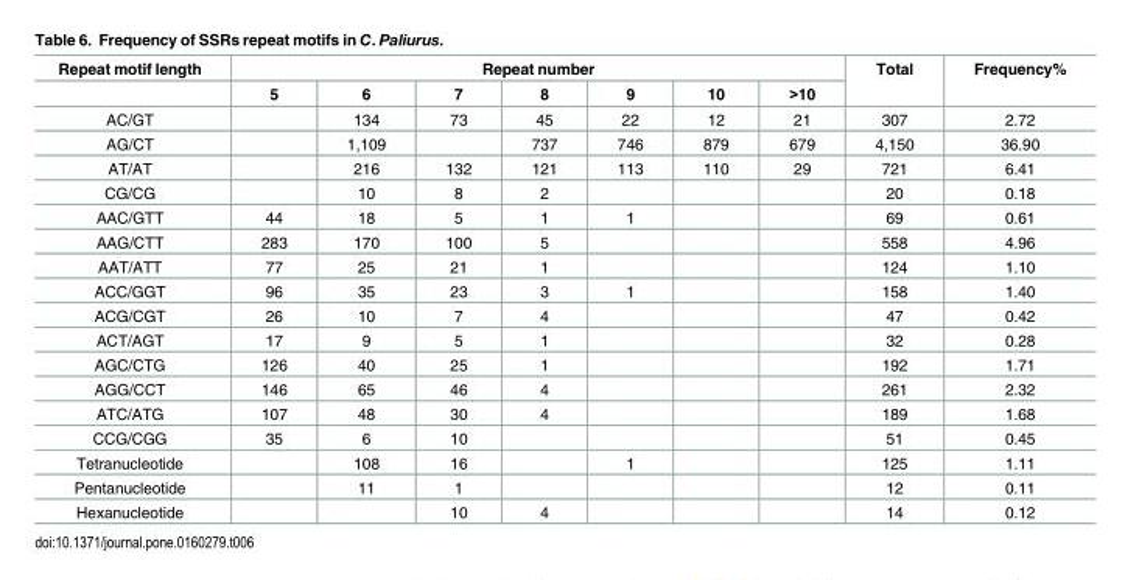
<table><thead><tr><td rowspan="2">Repeat motif length</td><td colspan="7">Repeat number</td><td rowspan="2">Total</td><td rowspan="2">Frequency%</td></tr><tr><td>5</td><td>6</td><td>7</td><td>8</td><td>9</td><td>10</td><td>&gt;10</td></tr></thead><tbody><tr><td>AC/GT</td><td></td><td>134</td><td>73</td><td>45</td><td>22</td><td>12</td><td>21</td><td>307</td><td>2.72</td></tr><tr><td>AG/CT</td><td></td><td>1,109</td><td></td><td>737</td><td>746</td><td>879</td><td>679</td><td>4,150</td><td>36.90</td></tr><tr><td>AT/AT</td><td></td><td>216</td><td>132</td><td>121</td><td>113</td><td>110</td><td>29</td><td>721</td><td>6.41</td></tr><tr><td>CG/CG</td><td></td><td>10</td><td>8</td><td>2</td><td></td><td></td><td></td><td>20</td><td>0.18</td></tr><tr><td>AAC/GTT</td><td>44</td><td>18</td><td>5</td><td>1</td><td>1</td><td></td><td></td><td>69</td><td>0.61</td></tr><tr><td>AAG/CTT</td><td>283</td><td>170</td><td>100</td><td>5</td><td></td><td></td><td></td><td>558</td><td>4.96</td></tr><tr><td>AAT/ATT</td><td>77</td><td>25</td><td>21</td><td>1</td><td></td><td></td><td></td><td>124</td><td>1.10</td></tr><tr><td>ACC/GGT</td><td>96</td><td>35</td><td>23</td><td>3</td><td>1</td><td></td><td></td><td>158</td><td>1.40</td></tr><tr><td>ACG/CGT</td><td>26</td><td>10</td><td>7</td><td>4</td><td></td><td></td><td></td><td>47</td><td>0.42</td></tr><tr><td>ACT/AGT</td><td>17</td><td>9</td><td>5</td><td>1</td><td></td><td></td><td></td><td>32</td><td>0.28</td></tr><tr><td>AGC/CTG</td><td>126</td><td>40</td><td>25</td><td>1</td><td></td><td></td><td></td><td>192</td><td>1.71</td></tr><tr><td>AGG/CCT</td><td>146</td><td>65</td><td>46</td><td>4</td><td></td><td></td><td></td><td>261</td><td>2.32</td></tr><tr><td>ATC/ATG</td><td>107</td><td>48</td><td>30</td><td>4</td><td></td><td></td><td></td><td>189</td><td>1.68</td></tr><tr><td>CCG/CGG</td><td>35</td><td>6</td><td>10</td><td></td><td></td><td></td><td></td><td>51</td><td>0.45</td></tr><tr><td>Tetranucleotide</td><td></td><td>108</td><td>16</td><td></td><td>1</td><td></td><td></td><td>125</td><td>1.11</td></tr><tr><td>Pentanucleotide</td><td></td><td>11</td><td>1</td><td></td><td></td><td></td><td></td><td>12</td><td>0.11</td></tr><tr><td>Hexanucleotide</td><td></td><td></td><td>10</td><td>4</td><td></td><td></td><td></td><td>14</td><td>0.12</td></tr></tbody></table>